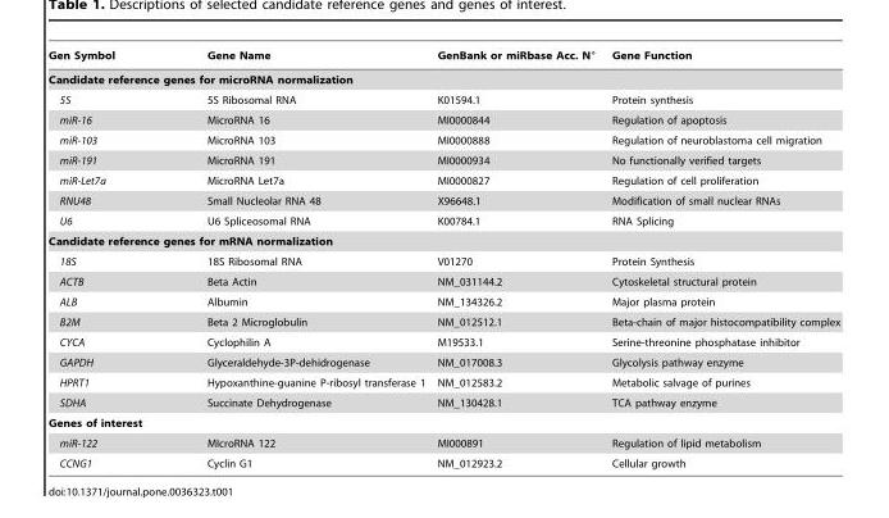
<table><thead><tr><td>Gen Symbol</td><td>Gene Name</td><td>GenBank or miRbase Acc. N°</td><td>Gene Function</td></tr></thead><tbody><tr><td colspan="4">Candidate reference genes for microRNA normalization</td></tr><tr><td>5S</td><td>5S Ribosomal RNA</td><td>K01594.1</td><td>Protein synthesis</td></tr><tr><td>miR-16</td><td>MicroRNA 16</td><td>MI0000844</td><td>Regulation of apoptosis</td></tr><tr><td>miR-103</td><td>MicroRNA 103</td><td>MI0000888</td><td>Regulation of neuroblastoma cell migration</td></tr><tr><td>miR-191</td><td>MicroRNA 191</td><td>MI0000934</td><td>No functionally verified targets</td></tr><tr><td>miR-Let7a</td><td>MicroRNA Let7a</td><td>MI0000827</td><td>Regulation of cell proliferation</td></tr><tr><td>RNU48</td><td>Small Nucleolar RNA 48</td><td>X96648.1</td><td>Modification of small nuclear RNAs</td></tr><tr><td>U6</td><td>U6 Spliceosomal RNA</td><td>K00784.1</td><td>RNA Splicing</td></tr><tr><td colspan="4">Candidate reference genes for mRNA normalization</td></tr><tr><td>18S</td><td>18S Ribosomal RNA</td><td>V01270</td><td>Protein Synthesis</td></tr><tr><td>ACTB</td><td>Beta Actin</td><td>NM_031144.2</td><td>Cytoskeletal structural protein</td></tr><tr><td>ALB</td><td>Albumin</td><td>NM_134326.2</td><td>Major plasma protein</td></tr><tr><td>B2M</td><td>Beta 2 Microglobulin</td><td>NM_012512.1</td><td>Beta-chain of major histocompatibility complex</td></tr><tr><td>CYCA</td><td>Cyclophilin A</td><td>M19533.1</td><td>Serine-threonine phosphatase inhibitor</td></tr><tr><td>GAPDH</td><td>Glyceraldehyde-3P-dehidrogenase</td><td>NM_017008.3</td><td>Glycolysis pathway enzyme</td></tr><tr><td>HPRT1</td><td>Hypoxanthine-guanine P-ribosyl transferase 1</td><td>NM_012583.2</td><td>Metabolic salvage of purines</td></tr><tr><td>SDHA</td><td>Succinate Dehydrogenase</td><td>NM_130428.1</td><td>TCA pathway enzyme</td></tr><tr><td colspan="4">Genes of interest</td></tr><tr><td>miR-122</td><td>MIcroRNA 122</td><td>MI000891</td><td>Regulation of lipid metabolism</td></tr><tr><td>CCNG1</td><td>Cyclin G1</td><td>NM_012923.2</td><td>Cellular growth</td></tr></tbody></table>